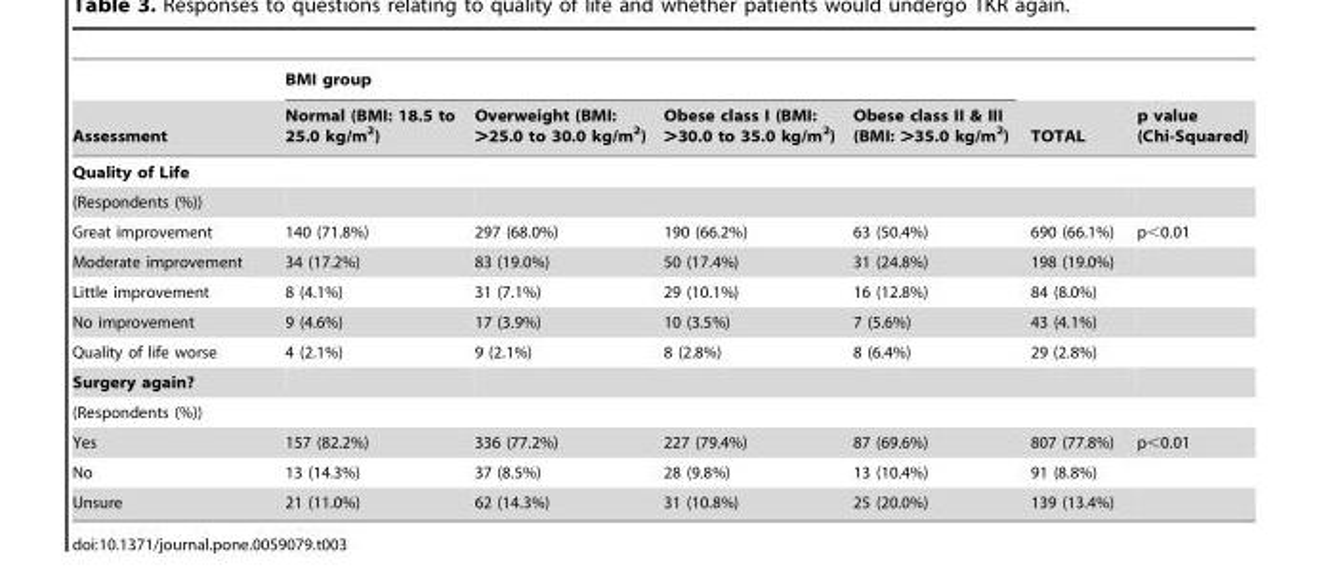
<table><thead><tr><td rowspan="2">Assessment</td><td colspan="4">BMI group</td><td rowspan="2">TOTAL</td><td rowspan="2">p value (Chi-Squared)</td></tr><tr><td>Normal (BMI: 18.5 to 25.0 kg/m<sup>2</sup>)</td><td>Overweight (BMI: &gt;25.0 to 30.0 kg/m<sup>2</sup>)</td><td>Obese class I (BMI: &gt;30.0 to 35.0 kg/m<sup>2</sup>)</td><td>Obese class II &amp; III (BMI: &gt;35.0 kg/m<sup>2</sup>)</td></tr></thead><tbody><tr><td colspan="7">Quality of Life</td></tr><tr><td colspan="7">(Respondents (%))</td></tr><tr><td>Great improvement</td><td>140 (71.8%)</td><td>297 (68.0%)</td><td>190 (66.2%)</td><td>63 (50.4%)</td><td>690 (66.1%)</td><td>p&lt;0.01</td></tr><tr><td>Moderate improvement</td><td>34 (17.2%)</td><td>83 (19.0%)</td><td>50 (17.4%)</td><td>31 (24.8%)</td><td>198 (19.0%)</td><td></td></tr><tr><td>Little improvement</td><td>8 (4.1%)</td><td>31 (7.1%)</td><td>29 (10.1%)</td><td>16 (12.8%)</td><td>84 (8.0%)</td><td></td></tr><tr><td>No improvement</td><td>9 (4.6%)</td><td>17 (3.9%)</td><td>10 (3.5%)</td><td>7 (5.6%)</td><td>43 (4.1%)</td><td></td></tr><tr><td>Quality of life worse</td><td>4 (2.1%)</td><td>9 (2.1%)</td><td>8 (2.8%)</td><td>8 (6.4%)</td><td>29 (2.8%)</td><td></td></tr><tr><td colspan="7">Surgery again?</td></tr><tr><td colspan="7">(Respondents (%))</td></tr><tr><td>Yes</td><td>157 (82.2%)</td><td>336 (77.2%)</td><td>227 (79.4%)</td><td>87 (69.6%)</td><td>807 (77.8%)</td><td>p&lt;0.01</td></tr><tr><td>No</td><td>13 (14.3%)</td><td>37 (8.5%)</td><td>28 (9.8%)</td><td>13 (10.4%)</td><td>91 (8.8%)</td><td></td></tr><tr><td>Unsure</td><td>21 (11.0%)</td><td>62 (14.3%)</td><td>31 (10.8%)</td><td>25 (20.0%)</td><td>139 (13.4%)</td><td></td></tr></tbody></table>